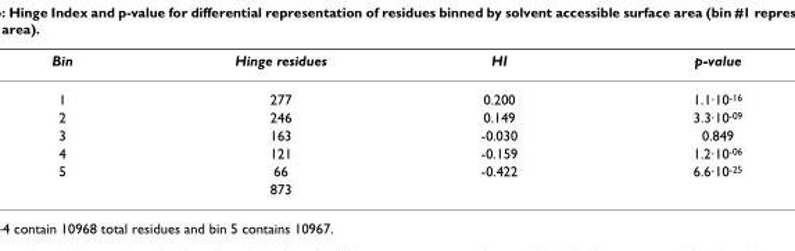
<table><thead><tr><td>Bin</td><td>Hinge residues</td><td>HI</td><td>p-value</td></tr></thead><tbody><tr><td>1</td><td>277</td><td>0.200</td><td>1.1·10<sup>-16</sup></td></tr><tr><td>2</td><td>246</td><td>0.149</td><td>3.3·10<sup>-09</sup></td></tr><tr><td>3</td><td>163</td><td>-0.030</td><td>0.849</td></tr><tr><td>4</td><td>121</td><td>-0.159</td><td>1.2·10<sup>-06</sup></td></tr><tr><td rowspan="2">5</td><td>66</td><td>-0.422</td><td>6.6·10<sup>-25</sup></td></tr><tr><td>873</td><td></td><td></td></tr></tbody></table>